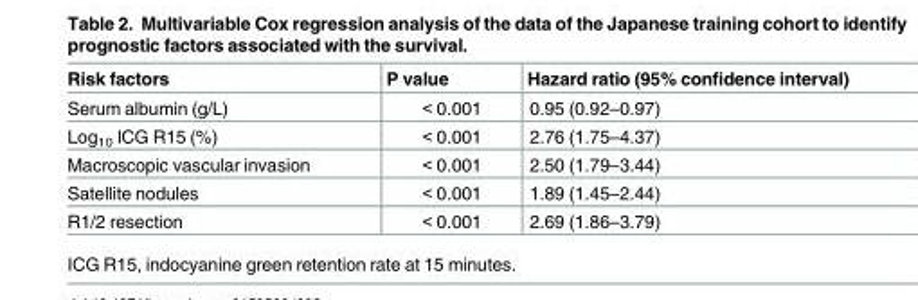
<table><thead><tr><td>Risk factors</td><td>P value</td><td>Hazard ratio (95% confidence interval)</td></tr></thead><tbody><tr><td>Serum albumin (g/L)</td><td>&lt; 0.001</td><td>0.95 (0.92–0.97)</td></tr><tr><td>Log<sub>10</sub> ICG R15 (%)</td><td>&lt; 0.001</td><td>2.76 (1.75–4.37)</td></tr><tr><td>Macroscopic vascular invasion</td><td>&lt; 0.001</td><td>2.50 (1.79–3.44)</td></tr><tr><td>Satellite nodules</td><td>&lt; 0.001</td><td>1.89 (1.45–2.44)</td></tr><tr><td>R1/2 resection</td><td>&lt; 0.001</td><td>2.69 (1.86–3.79)</td></tr></tbody></table>